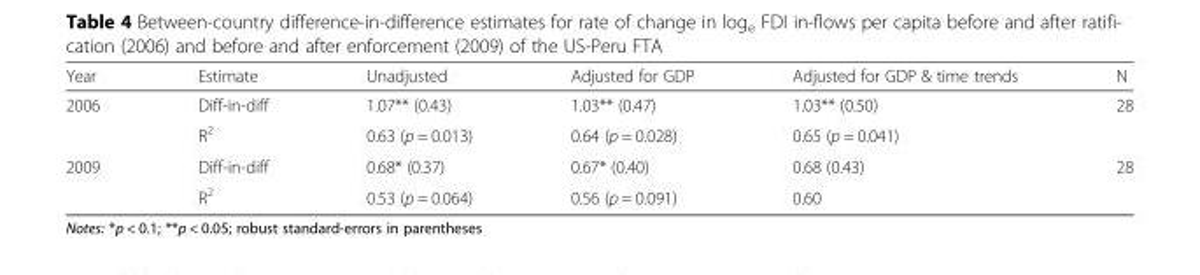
<table><thead><tr><td>Year</td><td>Estimate</td><td>Unadjusted</td><td>Adjusted for GDP</td><td>Adjusted for GDP &amp; time trends</td><td>N</td></tr></thead><tbody><tr><td rowspan="2">2006</td><td>Diff-in-diff</td><td>1.07** (0.43)</td><td>1.03** (0.47)</td><td>1.03** (0.50)</td><td rowspan="2">28</td></tr><tr><td>R<sup>2</sup></td><td>0.63 (p = 0.013)</td><td>0.64 (p = 0.028)</td><td>0.65 (p = 0.041)</td></tr><tr><td rowspan="2">2009</td><td>Diff-in-diff</td><td>0.68* (0.37)</td><td>0.67* (0.40)</td><td>0.68 (0.43)</td><td rowspan="2">28</td></tr><tr><td>R<sup>2</sup></td><td>0.53 (p = 0.064)</td><td>0.56 (p = 0.091)</td><td>0.60</td></tr></tbody></table>